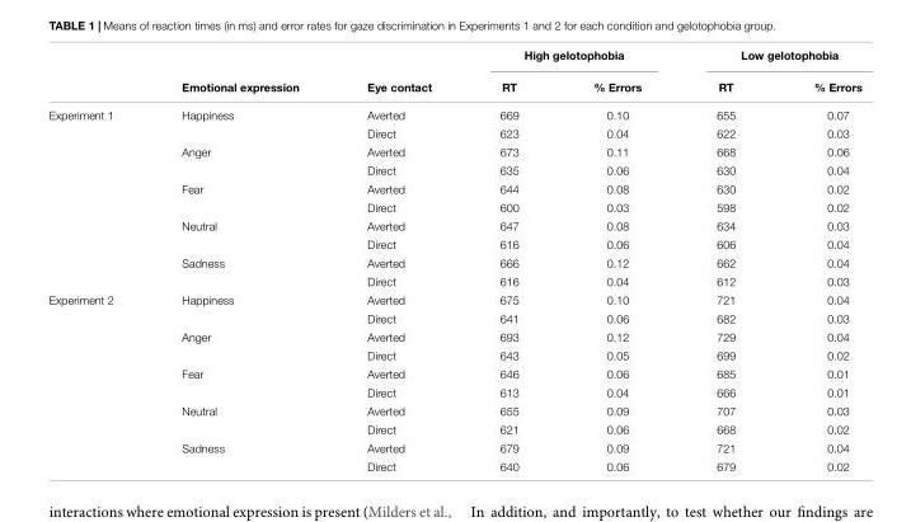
<table><thead><tr><td rowspan="2"></td><td rowspan="2">Emotional expression</td><td rowspan="2">Eye contact</td><td colspan="2">High gelotophobia</td><td colspan="2">Low gelotophobia</td></tr><tr><td>RT</td><td>% Errors</td><td>RT</td><td>% Errors</td></tr></thead><tbody><tr><td rowspan="10">Experiment 1</td><td>Happiness</td><td>Averted</td><td>669</td><td>0.10</td><td>655</td><td>0.07</td></tr><tr><td></td><td>Direct</td><td>623</td><td>0.04</td><td>622</td><td>0.03</td></tr><tr><td>Anger</td><td>Averted</td><td>673</td><td>0.11</td><td>668</td><td>0.06</td></tr><tr><td></td><td>Direct</td><td>635</td><td>0.06</td><td>630</td><td>0.04</td></tr><tr><td>Fear</td><td>Averted</td><td>644</td><td>0.08</td><td>630</td><td>0.02</td></tr><tr><td></td><td>Direct</td><td>600</td><td>0.03</td><td>598</td><td>0.02</td></tr><tr><td>Neutral</td><td>Averted</td><td>647</td><td>0.08</td><td>634</td><td>0.03</td></tr><tr><td></td><td>Direct</td><td>616</td><td>0.06</td><td>606</td><td>0.04</td></tr><tr><td>Sadness</td><td>Averted</td><td>666</td><td>0.12</td><td>662</td><td>0.04</td></tr><tr><td></td><td>Direct</td><td>616</td><td>0.04</td><td>612</td><td>0.03</td></tr><tr><td rowspan="10">Experiment 2</td><td>Happiness</td><td>Averted</td><td>675</td><td>0.10</td><td>721</td><td>0.04</td></tr><tr><td></td><td>Direct</td><td>641</td><td>0.06</td><td>682</td><td>0.03</td></tr><tr><td>Anger</td><td>Averted</td><td>693</td><td>0.12</td><td>729</td><td>0.04</td></tr><tr><td></td><td>Direct</td><td>643</td><td>0.05</td><td>699</td><td>0.02</td></tr><tr><td>Fear</td><td>Averted</td><td>646</td><td>0.06</td><td>685</td><td>0.01</td></tr><tr><td></td><td>Direct</td><td>613</td><td>0.04</td><td>666</td><td>0.01</td></tr><tr><td>Neutral</td><td>Averted</td><td>655</td><td>0.09</td><td>707</td><td>0.03</td></tr><tr><td></td><td>Direct</td><td>621</td><td>0.06</td><td>668</td><td>0.02</td></tr><tr><td>Sadness</td><td>Averted</td><td>679</td><td>0.09</td><td>721</td><td>0.04</td></tr><tr><td></td><td>Direct</td><td>640</td><td>0.06</td><td>679</td><td>0.02</td></tr></tbody></table>